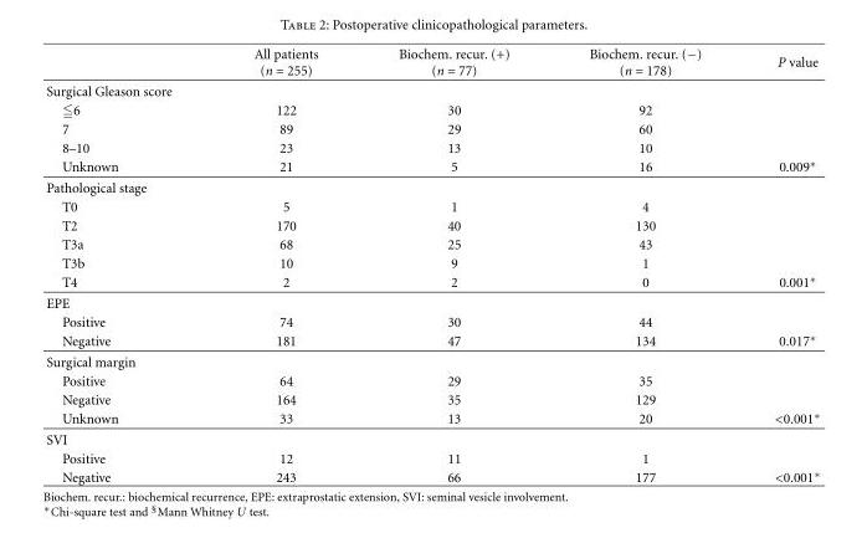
<table><thead><tr><td></td><td>All patients (n = 255)</td><td>Biochem. recur. (+) (n = 77)</td><td>Biochem. recur. (−) (n = 178)</td><td>P value</td></tr></thead><tbody><tr><td colspan="5">Surgical Gleason score</td></tr><tr><td>≦6</td><td>122</td><td>30</td><td>92</td><td></td></tr><tr><td>7</td><td>89</td><td>29</td><td>60</td><td></td></tr><tr><td>8–10</td><td>23</td><td>13</td><td>10</td><td></td></tr><tr><td>Unknown</td><td>21</td><td>5</td><td>16</td><td>0.009∗</td></tr><tr><td colspan="5">Pathological stage</td></tr><tr><td>T0</td><td>5</td><td>1</td><td>4</td><td></td></tr><tr><td>T2</td><td>170</td><td>40</td><td>130</td><td></td></tr><tr><td>T3a</td><td>68</td><td>25</td><td>43</td><td></td></tr><tr><td>T3b</td><td>10</td><td>9</td><td>1</td><td></td></tr><tr><td>T4</td><td>2</td><td>2</td><td>0</td><td>0.001∗</td></tr><tr><td colspan="5">EPE</td></tr><tr><td>Positive</td><td>74</td><td>30</td><td>44</td><td></td></tr><tr><td>Negative</td><td>181</td><td>47</td><td>134</td><td>0.017∗</td></tr><tr><td colspan="5">Surgical margin</td></tr><tr><td>Positive</td><td>64</td><td>29</td><td>35</td><td></td></tr><tr><td>Negative</td><td>164</td><td>35</td><td>129</td><td></td></tr><tr><td>Unknown</td><td>33</td><td>13</td><td>20</td><td>&lt;0.001∗</td></tr><tr><td colspan="5">SVI</td></tr><tr><td>Positive</td><td>12</td><td>11</td><td>1</td><td></td></tr><tr><td>Negative</td><td>243</td><td>66</td><td>177</td><td>&lt;0.001∗</td></tr></tbody></table>